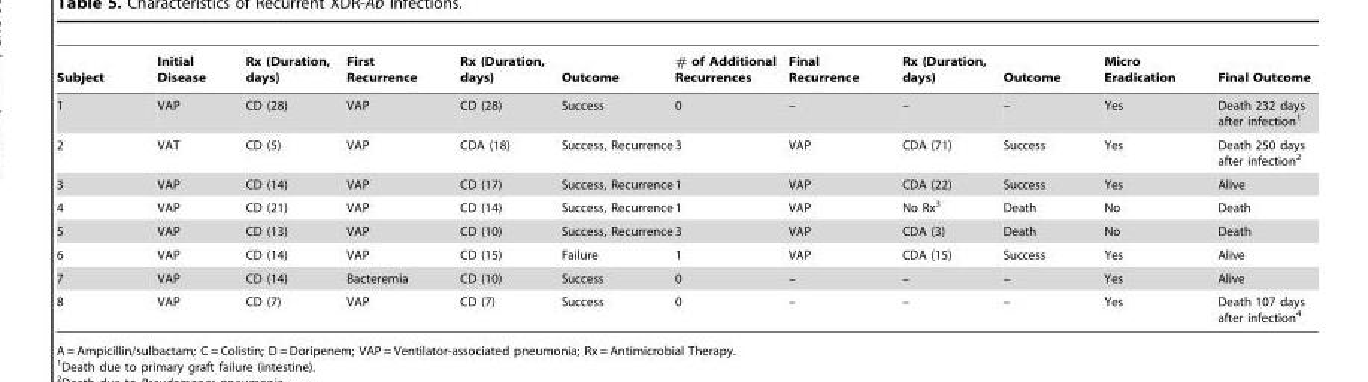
<table><thead><tr><td>Subject</td><td>Initial Disease</td><td>Rx (Duration, days)</td><td>First Recurrence</td><td>Rx (Duration, days)</td><td>Outcome</td><td># of Additional Recurrences</td><td>Final Recurrence</td><td>Rx (Duration, days)</td><td>Outcome</td><td>Micro Eradication</td><td>Final Outcome</td></tr></thead><tbody><tr><td>1</td><td>VAP</td><td>CD (28)</td><td>VAP</td><td>CD (28)</td><td>Success</td><td>0</td><td>–</td><td>–</td><td>–</td><td>Yes</td><td>Death 232 days after infection<sup>1</sup></td></tr><tr><td>2</td><td>VAT</td><td>CD (5)</td><td>VAP</td><td>CDA (18)</td><td>Success, Recurrence</td><td>3</td><td>VAP</td><td>CDA (71)</td><td>Success</td><td>Yes</td><td>Death 250 days after infection<sup>2</sup></td></tr><tr><td>3</td><td>VAP</td><td>CD (14)</td><td>VAP</td><td>CD (17)</td><td>Success, Recurrence</td><td>1</td><td>VAP</td><td>CDA (22)</td><td>Success</td><td>Yes</td><td>Alive</td></tr><tr><td>4</td><td>VAP</td><td>CD (21)</td><td>VAP</td><td>CD (14)</td><td>Success, Recurrence</td><td>1</td><td>VAP</td><td>No Rx<sup>3</sup></td><td>Death</td><td>No</td><td>Death</td></tr><tr><td>5</td><td>VAP</td><td>CD (13)</td><td>VAP</td><td>CD (10)</td><td>Success, Recurrence</td><td>3</td><td>VAP</td><td>CDA (3)</td><td>Death</td><td>No</td><td>Death</td></tr><tr><td>6</td><td>VAP</td><td>CD (14)</td><td>VAP</td><td>CD (15)</td><td>Failure</td><td>1</td><td>VAP</td><td>CDA (15)</td><td>Success</td><td>Yes</td><td>Alive</td></tr><tr><td>7</td><td>VAP</td><td>CD (14)</td><td>Bacteremia</td><td>CD (10)</td><td>Success</td><td>0</td><td>–</td><td>–</td><td>–</td><td>Yes</td><td>Alive</td></tr><tr><td>8</td><td>VAP</td><td>CD (7)</td><td>VAP</td><td>CD (7)</td><td>Success</td><td>0</td><td>–</td><td>–</td><td>–</td><td>Yes</td><td>Death 107 days after infection<sup>4</sup></td></tr></tbody></table>